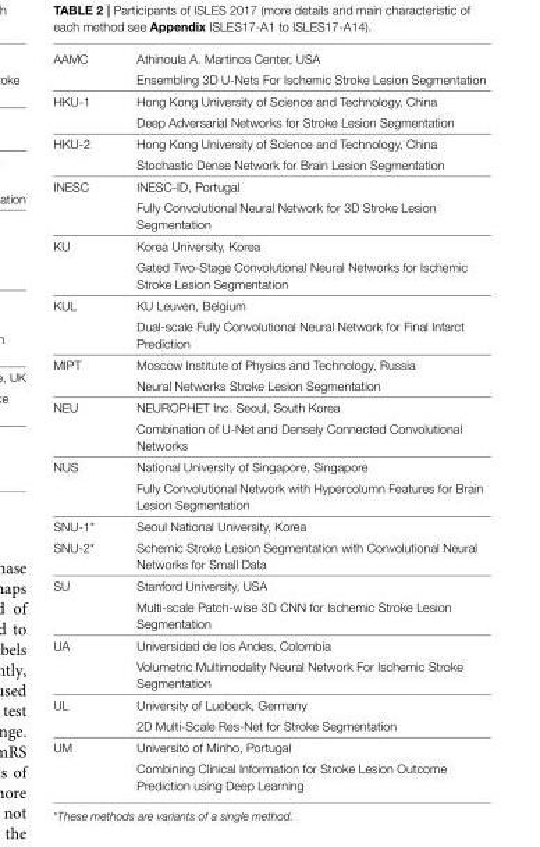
<table><tbody><tr><td rowspan="2">AAMC</td><td>Athinoula A. Martinos Center, USA</td></tr><tr><td>Ensembling 3D U-Nets For Ischemic Stroke Lesion Segmentation</td></tr><tr><td rowspan="2">HKU-1</td><td>Hong Kong University of Science and Technology, China</td></tr><tr><td>Deep Adversarial Networks for Stroke Lesion Segmentation</td></tr><tr><td rowspan="2">HKU-2</td><td>Hong Kong University of Science and Technology, China</td></tr><tr><td>Stochastic Dense Network for Brain Lesion Segmentation</td></tr><tr><td rowspan="2">INESC</td><td>INESC-ID, Portugal</td></tr><tr><td>Fully Convolutional Neural Network for 3D Stroke Lesion Segmentation</td></tr><tr><td rowspan="2">KU</td><td>Korea University, Korea</td></tr><tr><td>Gated Two-Stage Convolutional Neural Networks for Ischemic Stroke Lesion Segmentation</td></tr><tr><td rowspan="2">KUL</td><td>KU Leuven, Belgium</td></tr><tr><td>Dual-scale Fully Convolutional Neural Network for Final Infarct Prediction</td></tr><tr><td rowspan="2">MIPT</td><td>Moscow Institute of Physics and Technology, Russia</td></tr><tr><td>Neural Networks Stroke Lesion Segmentation</td></tr><tr><td rowspan="2">NEU</td><td>NEUROPHET Inc. Seoul, South Korea</td></tr><tr><td>Combination of U-Net and Densely Connected Convolutional Networks</td></tr><tr><td rowspan="2">NUS</td><td>National University of Singapore, Singapore</td></tr><tr><td>Fully Convolutional Network with Hypercolumn Features for Brain Lesion Segmentation</td></tr><tr><td>SNU-1*</td><td>Seoul National University, Korea</td></tr><tr><td>SNU-2*</td><td>Schemic Stroke Lesion Segmentation with Convolutional Neural Networks for Small Data</td></tr><tr><td rowspan="2">SU</td><td>Stanford University, USA</td></tr><tr><td>Multi-scale Patch-wise 3D CNN for Ischemic Stroke Lesion Segmentation</td></tr><tr><td rowspan="2">UA</td><td>Universidad de los Andes, Colombia</td></tr><tr><td>Volumetric Multimodality Neural Network For Ischemic Stroke Segmentation</td></tr><tr><td rowspan="2">UL</td><td>University of Luebeck, Germany</td></tr><tr><td>2D Multi-Scale Res-Net for Stroke Segmentation</td></tr><tr><td rowspan="2">UM</td><td>Universito of Minho, Portugal</td></tr><tr><td>Combining Clinical Information for Stroke Lesion Outcome Prediction using Deep Learning</td></tr></tbody></table>